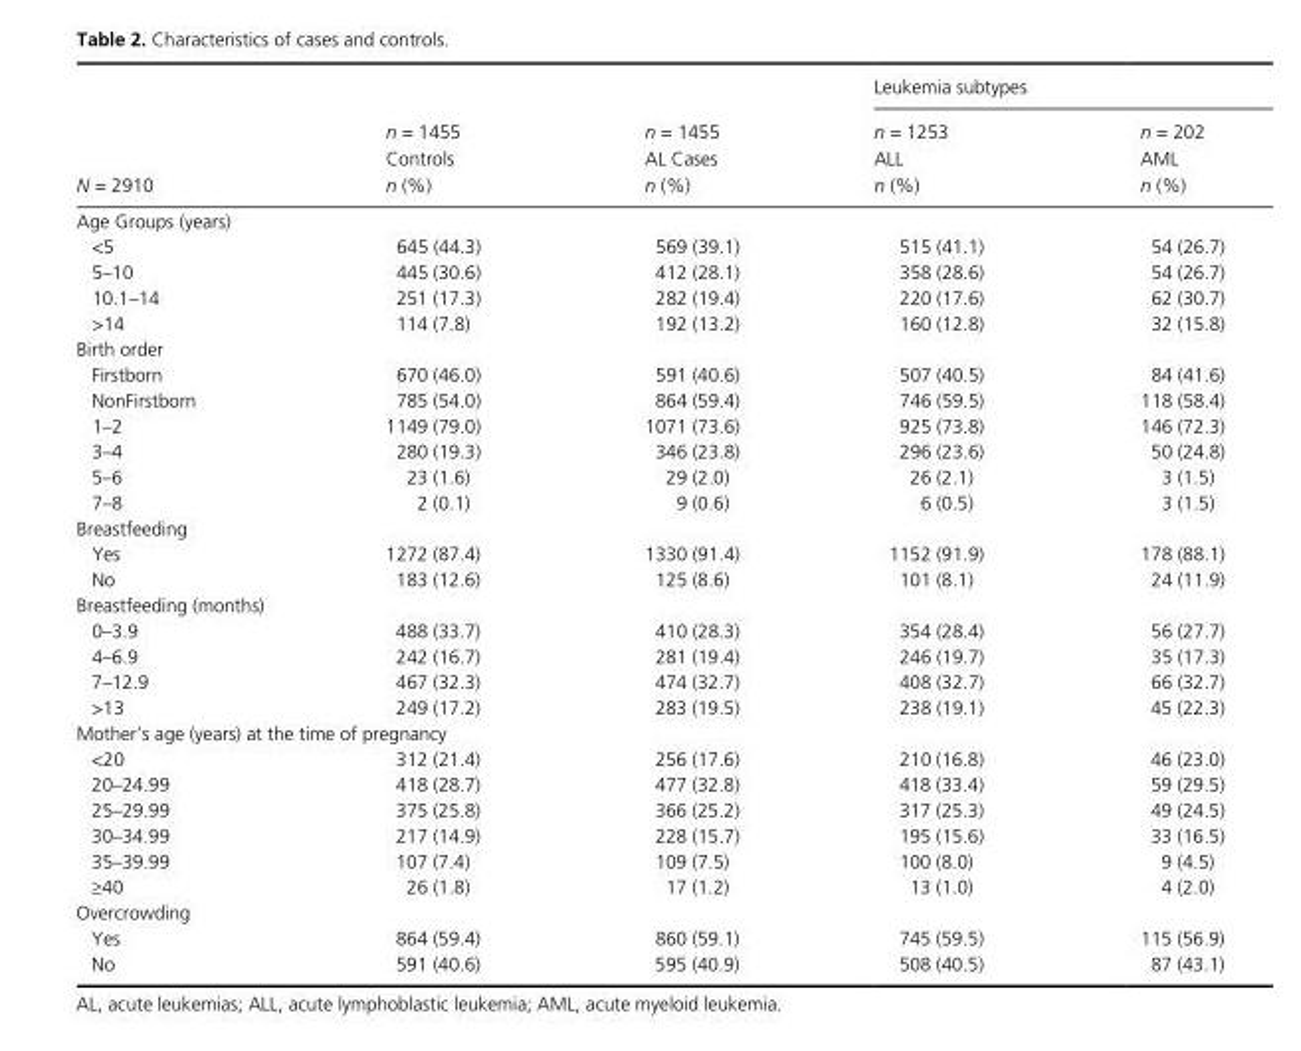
<table><thead><tr><td rowspan="2">N = 2910</td><td rowspan="2">n = 1455 Controls n (%)</td><td rowspan="2">n = 1455 AL Cases n (%)</td><td colspan="2">Leukemia subtypes</td></tr><tr><td>n = 1253 ALL n (%)</td><td>n = 202 AML n (%)</td></tr></thead><tbody><tr><td colspan="5">Age Groups (years)</td></tr><tr><td>&lt;5</td><td>645 (44.3)</td><td>569 (39.1)</td><td>515 (41.1)</td><td>54 (26.7)</td></tr><tr><td>5–10</td><td>445 (30.6)</td><td>412 (28.1)</td><td>358 (28.6)</td><td>54 (26.7)</td></tr><tr><td>10.1–14</td><td>251 (17.3)</td><td>282 (19.4)</td><td>220 (17.6)</td><td>62 (30.7)</td></tr><tr><td>&gt;14</td><td>114 (7.8)</td><td>192 (13.2)</td><td>160 (12.8)</td><td>32 (15.8)</td></tr><tr><td colspan="5">Birth order</td></tr><tr><td>Firstborn</td><td>670 (46.0)</td><td>591 (40.6)</td><td>507 (40.5)</td><td>84 (41.6)</td></tr><tr><td>NonFirstborn</td><td>785 (54.0)</td><td>864 (59.4)</td><td>746 (59.5)</td><td>118 (58.4)</td></tr><tr><td>1–2</td><td>1149 (79.0)</td><td>1071 (73.6)</td><td>925 (73.8)</td><td>146 (72.3)</td></tr><tr><td>3–4</td><td>280 (19.3)</td><td>346 (23.8)</td><td>296 (23.6)</td><td>50 (24.8)</td></tr><tr><td>5–6</td><td>23 (1.6)</td><td>29 (2.0)</td><td>26 (2.1)</td><td>3 (1.5)</td></tr><tr><td>7–8</td><td>2 (0.1)</td><td>9 (0.6)</td><td>6 (0.5)</td><td>3 (1.5)</td></tr><tr><td colspan="5">Breastfeeding</td></tr><tr><td>Yes</td><td>1272 (87.4)</td><td>1330 (91.4)</td><td>1152 (91.9)</td><td>178 (88.1)</td></tr><tr><td>No</td><td>183 (12.6)</td><td>125 (8.6)</td><td>101 (8.1)</td><td>24 (11.9)</td></tr><tr><td colspan="5">Breastfeeding (months)</td></tr><tr><td>0–3.9</td><td>488 (33.7)</td><td>410 (28.3)</td><td>354 (28.4)</td><td>56 (27.7)</td></tr><tr><td>4–6.9</td><td>242 (16.7)</td><td>281 (19.4)</td><td>246 (19.7)</td><td>35 (17.3)</td></tr><tr><td>7–12.9</td><td>467 (32.3)</td><td>474 (32.7)</td><td>408 (32.7)</td><td>66 (32.7)</td></tr><tr><td>&gt;13</td><td>249 (17.2)</td><td>283 (19.5)</td><td>238 (19.1)</td><td>45 (22.3)</td></tr><tr><td colspan="5">Mother’s age (years) at the time of pregnancy</td></tr><tr><td>&lt;20</td><td>312 (21.4)</td><td>256 (17.6)</td><td>210 (16.8)</td><td>46 (23.0)</td></tr><tr><td>20–24.99</td><td>418 (28.7)</td><td>477 (32.8)</td><td>418 (33.4)</td><td>59 (29.5)</td></tr><tr><td>25–29.99</td><td>375 (25.8)</td><td>366 (25.2)</td><td>317 (25.3)</td><td>49 (24.5)</td></tr><tr><td>30–34.99</td><td>217 (14.9)</td><td>228 (15.7)</td><td>195 (15.6)</td><td>33 (16.5)</td></tr><tr><td>35–39.99</td><td>107 (7.4)</td><td>109 (7.5)</td><td>100 (8.0)</td><td>9 (4.5)</td></tr><tr><td>≥40</td><td>26 (1.8)</td><td>17 (1.2)</td><td>13 (1.0)</td><td>4 (2.0)</td></tr><tr><td colspan="5">Overcrowding</td></tr><tr><td>Yes</td><td>864 (59.4)</td><td>860 (59.1)</td><td>745 (59.5)</td><td>115 (56.9)</td></tr><tr><td>No</td><td>591 (40.6)</td><td>595 (40.9)</td><td>508 (40.5)</td><td>87 (43.1)</td></tr></tbody></table>